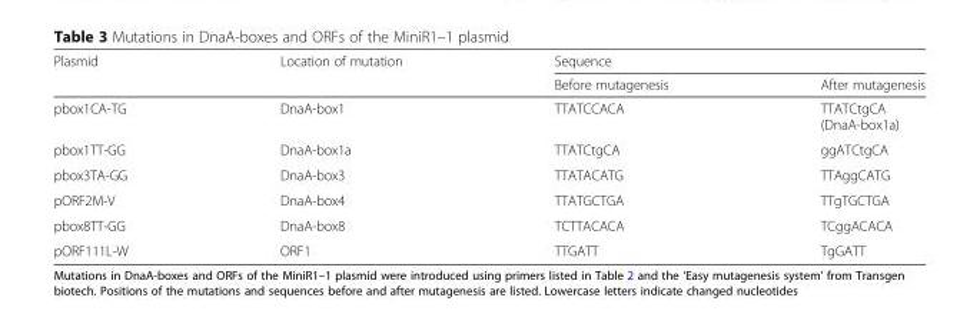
<table><thead><tr><td rowspan="2">Plasmid</td><td rowspan="2">Location of mutation</td><td colspan="2">Sequence</td></tr><tr><td>Before mutagenesis</td><td>After mutagenesis</td></tr></thead><tbody><tr><td>pbox1CA-TG</td><td>DnaA-box1</td><td>TTATCCACA</td><td>TTATCtgCA (DnaA-box1a)</td></tr><tr><td>pbox1TT-GG</td><td>DnaA-box1a</td><td>TTATCtgCA</td><td>ggATCtgCA</td></tr><tr><td>pbox3TA-GG</td><td>DnaA-box3</td><td>TTATACATG</td><td>TTAggCATG</td></tr><tr><td>pORF2M-V</td><td>DnaA-box4</td><td>TTATGCTGA</td><td>TTgTGCTGA</td></tr><tr><td>pbox8TT-GG</td><td>DnaA-box8</td><td>TCTTACACA</td><td>TCggACACA</td></tr><tr><td>pORF111L-W</td><td>ORF1</td><td>TTGATT</td><td>TgGATT</td></tr></tbody></table>